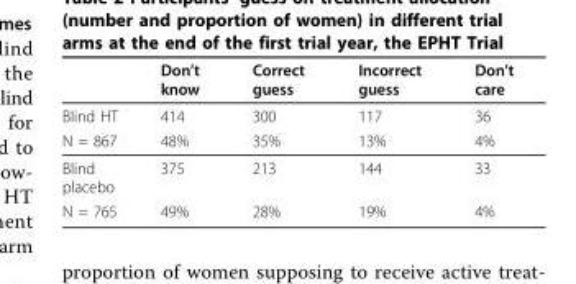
<table><thead><tr><td></td><td>Don’t know</td><td>Correct guess</td><td>Incorrect guess</td><td>Don’t care</td></tr></thead><tbody><tr><td>Blind HT</td><td>414</td><td>300</td><td>117</td><td>36</td></tr><tr><td>N = 867</td><td>48%</td><td>35%</td><td>13%</td><td>4%</td></tr><tr><td>Blind placebo</td><td>375</td><td>213</td><td>144</td><td>33</td></tr><tr><td>N = 765</td><td>49%</td><td>28%</td><td>19%</td><td>4%</td></tr></tbody></table>